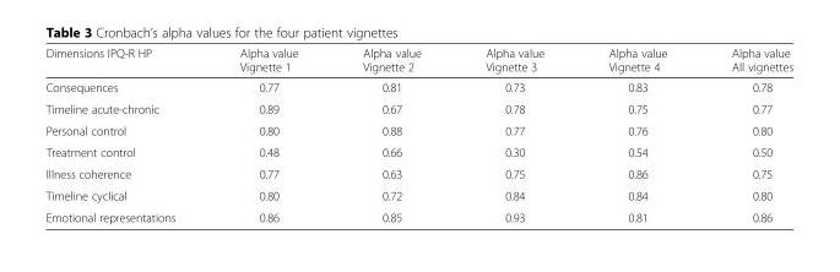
<table><thead><tr><td>Dimensions IPQ-R HP</td><td>Alpha value Vignette 1</td><td>Alpha value Vignette 2</td><td>Alpha value Vignette 3</td><td>Alpha value Vignette 4</td><td>Alpha value All vignettes</td></tr></thead><tbody><tr><td>Consequences</td><td>0.77</td><td>0.81</td><td>0.73</td><td>0.83</td><td>0.78</td></tr><tr><td>Timeline acute-chronic</td><td>0.89</td><td>0.67</td><td>0.78</td><td>0.75</td><td>0.77</td></tr><tr><td>Personal control</td><td>0.80</td><td>0.88</td><td>0.77</td><td>0.76</td><td>0.80</td></tr><tr><td>Treatment control</td><td>0.48</td><td>0.66</td><td>0.30</td><td>0.54</td><td>0.50</td></tr><tr><td>Illness coherence</td><td>0.77</td><td>0.63</td><td>0.75</td><td>0.86</td><td>0.75</td></tr><tr><td>Timeline cyclical</td><td>0.80</td><td>0.72</td><td>0.84</td><td>0.84</td><td>0.80</td></tr><tr><td>Emotional representations</td><td>0.86</td><td>0.85</td><td>0.93</td><td>0.81</td><td>0.86</td></tr></tbody></table>